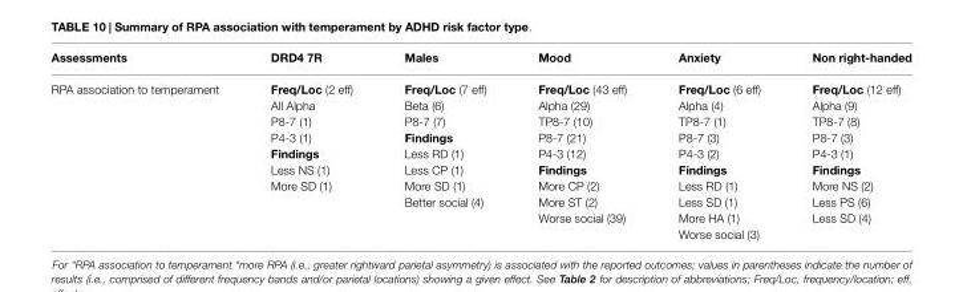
<table><thead><tr><td>Assessments</td><td>DRD4 7R</td><td>Males</td><td>Mood</td><td>Anxiety</td><td>Non right-handed</td></tr></thead><tbody><tr><td rowspan="10">RPA association to temperament</td><td>Freq/Loc (2 eff)</td><td>Freq/Loc (7 eff)</td><td>Freq/Loc (43 eff)</td><td>Freq/Loc (6 eff)</td><td>Freq/Loc (12 eff)</td></tr><tr><td>All Alpha</td><td>Beta (6)</td><td>Alpha (29)</td><td>Alpha (4)</td><td>Alpha (9)</td></tr><tr><td>P8-7 (1)</td><td>P8-7 (7)</td><td>TP8-7 (10)</td><td>TP8-7 (1)</td><td>TP8-7 (8)</td></tr><tr><td>P4-3 (1)</td><td>Findings</td><td>P8-7 (21)</td><td>P8-7 (3)</td><td>P8-7 (3)</td></tr><tr><td>Findings</td><td>Less RD (1)</td><td>P4-3 (12)</td><td>P4-3 (2)</td><td>P4-3 (1)</td></tr><tr><td>Less NS (1)</td><td>Less CP (1)</td><td>Findings</td><td>Findings</td><td>Findings</td></tr><tr><td>More SD (1)</td><td>More SD (1)</td><td>More CP (2)</td><td>Less RD (1)</td><td>More NS (2)</td></tr><tr><td></td><td>Better social (4)</td><td>More ST (2)</td><td>Less SD (1)</td><td>Less PS (6)</td></tr><tr><td></td><td></td><td>Worse social (39)</td><td>More HA (1)</td><td>Less SD (4)</td></tr><tr><td></td><td></td><td></td><td>Worse social (3)</td><td></td></tr></tbody></table>